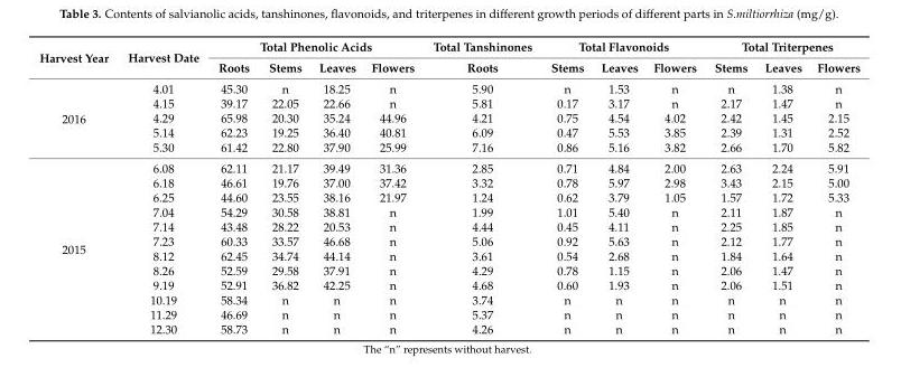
<table><thead><tr><td rowspan="2">Harvest Year</td><td rowspan="2">Harvest Date</td><td colspan="4">Total Phenolic Acids</td><td rowspan="2">Total Tanshinones Roots</td><td colspan="3">Total Flavonoids</td><td colspan="3">Total Triterpenes</td></tr><tr><td>Roots</td><td>Stems</td><td>Leaves</td><td>Flowers</td><td>Stems</td><td>Leaves</td><td>Flowers</td><td>Stems</td><td>Leaves</td><td>Flowers</td></tr></thead><tbody><tr><td rowspan="5">2016</td><td>4.01</td><td>45.30</td><td>n</td><td>18.25</td><td>n</td><td>5.90</td><td>n</td><td>1.53</td><td>n</td><td>n</td><td>1.38</td><td>n</td></tr><tr><td>4.15</td><td>39.17</td><td>22.05</td><td>22.66</td><td>n</td><td>5.81</td><td>0.17</td><td>3.17</td><td>n</td><td>2.17</td><td>1.47</td><td>n</td></tr><tr><td>4.29</td><td>65.98</td><td>20.30</td><td>35.24</td><td>44.96</td><td>4.21</td><td>0.75</td><td>4.54</td><td>4.02</td><td>2.42</td><td>1.45</td><td>2.15</td></tr><tr><td>5.14</td><td>62.23</td><td>19.25</td><td>36.40</td><td>40.81</td><td>6.09</td><td>0.47</td><td>5.53</td><td>3.85</td><td>2.39</td><td>1.31</td><td>2.52</td></tr><tr><td>5.30</td><td>61.42</td><td>22.80</td><td>37.90</td><td>25.99</td><td>7.16</td><td>0.86</td><td>5.16</td><td>3.82</td><td>2.66</td><td>1.70</td><td>5.82</td></tr><tr><td rowspan="12">2015</td><td>6.08</td><td>62.11</td><td>21.17</td><td>39.49</td><td>31.36</td><td>2.85</td><td>0.71</td><td>4.84</td><td>2.00</td><td>2.63</td><td>2.24</td><td>5.91</td></tr><tr><td>6.18</td><td>46.61</td><td>19.76</td><td>37.00</td><td>37.42</td><td>3.32</td><td>0.78</td><td>5.97</td><td>2.98</td><td>3.43</td><td>2.15</td><td>5.00</td></tr><tr><td>6.25</td><td>44.60</td><td>23.55</td><td>38.16</td><td>21.97</td><td>1.24</td><td>0.62</td><td>3.79</td><td>1.05</td><td>1.57</td><td>1.72</td><td>5.33</td></tr><tr><td>7.04</td><td>54.29</td><td>30.58</td><td>38.81</td><td>n</td><td>1.99</td><td>1.01</td><td>5.40</td><td>n</td><td>2.11</td><td>1.87</td><td>n</td></tr><tr><td>7.14</td><td>43.48</td><td>28.22</td><td>20.53</td><td>n</td><td>4.44</td><td>0.45</td><td>4.11</td><td>n</td><td>2.25</td><td>1.85</td><td>n</td></tr><tr><td>7.23</td><td>60.33</td><td>33.57</td><td>46.68</td><td>n</td><td>5.06</td><td>0.92</td><td>5.63</td><td>n</td><td>2.12</td><td>1.77</td><td>n</td></tr><tr><td>8.12</td><td>62.45</td><td>34.74</td><td>44.14</td><td>n</td><td>3.61</td><td>0.54</td><td>2.68</td><td>n</td><td>1.84</td><td>1.64</td><td>n</td></tr><tr><td>8.26</td><td>52.59</td><td>29.58</td><td>37.91</td><td>n</td><td>4.29</td><td>0.78</td><td>1.15</td><td>n</td><td>2.06</td><td>1.47</td><td>n</td></tr><tr><td>9.19</td><td>52.91</td><td>36.82</td><td>42.25</td><td>n</td><td>4.68</td><td>0.60</td><td>1.93</td><td>n</td><td>2.06</td><td>1.51</td><td>n</td></tr><tr><td>10.19</td><td>58.34</td><td>n</td><td>n</td><td>n</td><td>3.74</td><td>n</td><td>n</td><td>n</td><td>n</td><td>n</td><td>n</td></tr><tr><td>11.29</td><td>46.69</td><td>n</td><td>n</td><td>n</td><td>5.37</td><td>n</td><td>n</td><td>n</td><td>n</td><td>n</td><td>n</td></tr><tr><td>12.30</td><td>58.73</td><td>n</td><td>n</td><td>n</td><td>4.26</td><td>n</td><td>n</td><td>n</td><td>n</td><td>n</td><td>n</td></tr></tbody></table>